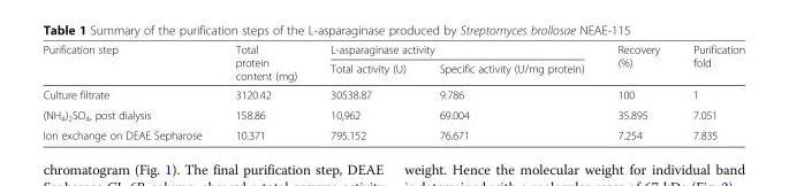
<table><thead><tr><td rowspan="2">Purification step</td><td rowspan="2">Total protein content (mg)</td><td colspan="2">L-asparaginase activity</td><td rowspan="2">Recovery (%)</td><td rowspan="2">Purification fold</td></tr><tr><td>Total activity (U)</td><td>Specific activity (U/mg protein)</td></tr></thead><tbody><tr><td>Culture filtrate</td><td>3120.42</td><td>30538.87</td><td>9.786</td><td>100</td><td>1</td></tr><tr><td>(NH<sub>4</sub>)<sub>2</sub>SO<sub>4</sub>, post dialysis</td><td>158.86</td><td>10,962</td><td>69.004</td><td>35.895</td><td>7.051</td></tr><tr><td>Ion exchange on DEAE Sepharose</td><td>10.371</td><td>795.152</td><td>76.671</td><td>7.254</td><td>7.835</td></tr></tbody></table>